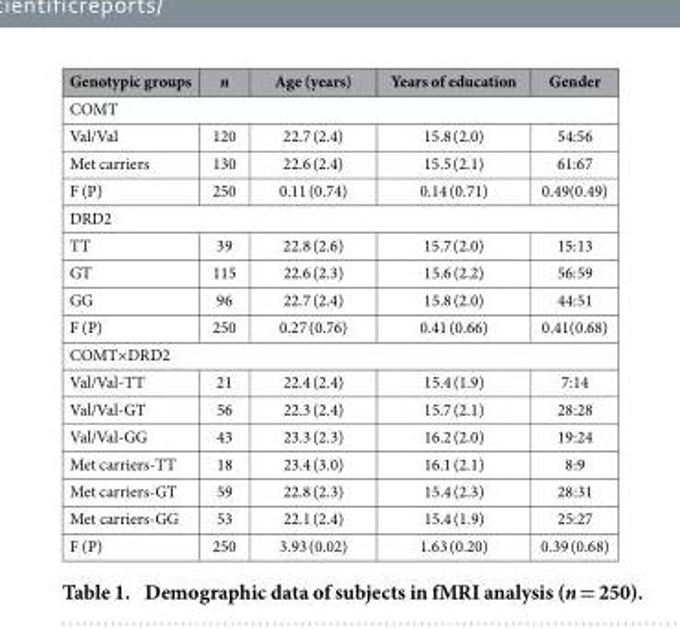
<table><thead><tr><td>Genotypic groups</td><td>n</td><td>Age (years)</td><td>Years of education</td><td>Gender</td></tr></thead><tbody><tr><td colspan="5">COMT</td></tr><tr><td>Val/Val</td><td>120</td><td>22.7 (2.4)</td><td>15.8 (2.0)</td><td>54:56</td></tr><tr><td>Met carriers</td><td>130</td><td>22.6 (2.4)</td><td>15.5 (2.1)</td><td>61:67</td></tr><tr><td>F (P)</td><td>250</td><td>0.11 (0.74)</td><td>0.14 (0.71)</td><td>0.49(0.49)</td></tr><tr><td colspan="5">DRD2</td></tr><tr><td>TT</td><td>39</td><td>22.8 (2.6)</td><td>15.7 (2.0)</td><td>15:13</td></tr><tr><td>GT</td><td>115</td><td>22.6 (2.3)</td><td>15.6 (2.2)</td><td>56:59</td></tr><tr><td>GG</td><td>96</td><td>22.7 (2.4)</td><td>15.8 (2.0)</td><td>44:51</td></tr><tr><td>F (P)</td><td>250</td><td>0.27 (0.76)</td><td>0.41 (0.66)</td><td>0.41(0.68)</td></tr><tr><td colspan="5">COMT× DRD2</td></tr><tr><td>Val/Val-TT</td><td>21</td><td>22.4 (2.4)</td><td>15.4 (1.9)</td><td>7:14</td></tr><tr><td>Val/Val-GT</td><td>56</td><td>22.3 (2.4)</td><td>15.7 (2.1)</td><td>28:28</td></tr><tr><td>Val/Val-GG</td><td>43</td><td>23.3 (2.3)</td><td>16.2 (2.0)</td><td>19:24</td></tr><tr><td>Met carriers-TT</td><td>18</td><td>23.4 (3.0)</td><td>16.1 (2.1)</td><td>8:9</td></tr><tr><td>Met carriers-GT</td><td>59</td><td>22.8 (2.3)</td><td>15.4 (2.3)</td><td>28:31</td></tr><tr><td>Met carriers-GG</td><td>53</td><td>22.1 (2.4)</td><td>15.4 (1.9)</td><td>25:27</td></tr><tr><td>F (P)</td><td>250</td><td>3.93 (0.02)</td><td>1.63 (0.20)</td><td>0.39 (0.68)</td></tr></tbody></table>